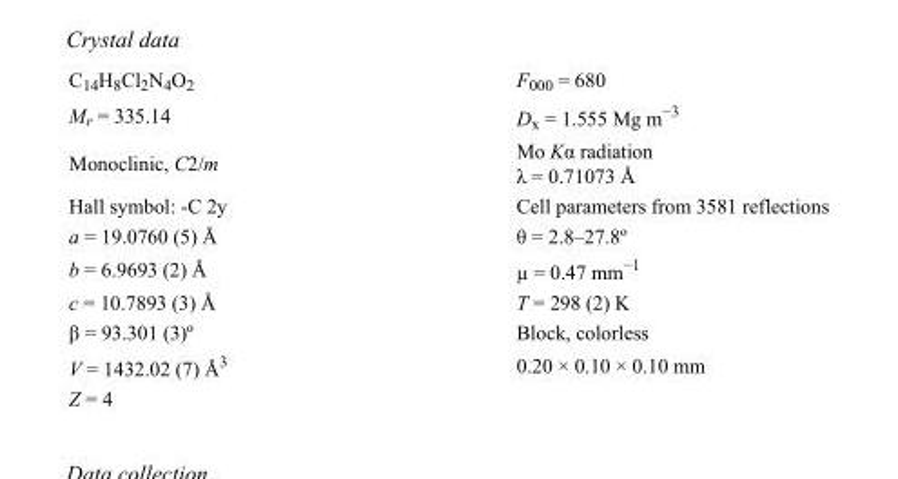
<table><tbody><tr><td>C<sub>14</sub>H<sub>8</sub>Cl<sub>2</sub>N<sub>4</sub>O<sub>2</sub></td><td>F000 = 680</td></tr><tr><td>M<sub>r</sub> = 335.14</td><td>D<sub>x</sub> = 1.555 Mg m<sup>−3</sup></td></tr><tr><td>Monoclinic, C2/m</td><td>Mo Kα radiation λ = 0.71073 Å</td></tr><tr><td>Hall symbol: -C 2y</td><td>Cell parameters from 3581 reflections</td></tr><tr><td>a = 19.0760 (5) Å</td><td>θ = 2.8–27.8º</td></tr><tr><td>b = 6.9693 (2) Å</td><td>µ = 0.47 mm<sup>−1</sup></td></tr><tr><td>c = 10.7893 (3) Å</td><td>T = 298 (2) K</td></tr><tr><td>β = 93.301 (3)º</td><td>Block, colorless</td></tr><tr><td>V = 1432.02 (7) Å<sup>3</sup></td><td>0.20 × 0.10 × 0.10 mm</td></tr><tr><td>Z = 4</td><td></td></tr></tbody></table>